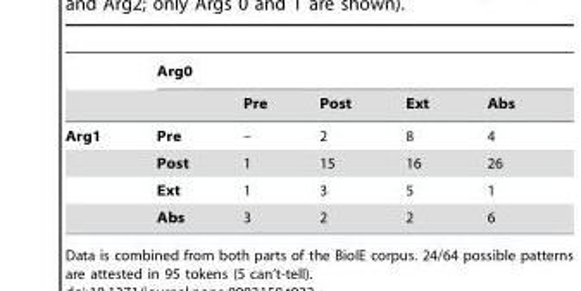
<table><thead><tr><td rowspan="2"></td><td colspan="5">Arg0</td></tr><tr><td></td><td>Pre</td><td>Post</td><td>Ext</td><td>Abs</td></tr></thead><tbody><tr><td rowspan="4">Arg1</td><td>Pre</td><td>–</td><td>2</td><td>8</td><td>4</td></tr><tr><td>Post</td><td>1</td><td>15</td><td>16</td><td>26</td></tr><tr><td>Ext</td><td>1</td><td>3</td><td>5</td><td>1</td></tr><tr><td>Abs</td><td>3</td><td>2</td><td>2</td><td>6</td></tr></tbody></table>